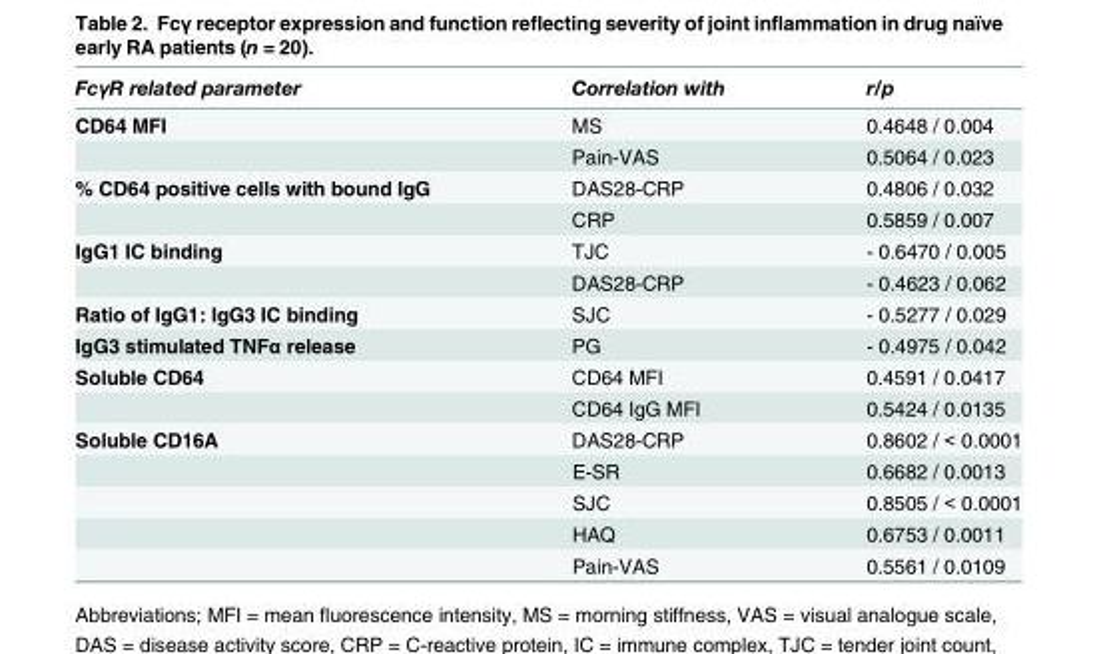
<table><thead><tr><td>FcγR related parameter</td><td>Correlation with</td><td>r/p</td></tr></thead><tbody><tr><td rowspan="2">CD64 MFI</td><td>MS</td><td>0.4648 / 0.004</td></tr><tr><td>Pain-VAS</td><td>0.5064 / 0.023</td></tr><tr><td rowspan="2">% CD64 positive cells with bound IgG</td><td>DAS28-CRP</td><td>0.4806 / 0.032</td></tr><tr><td>CRP</td><td>0.5859 / 0.007</td></tr><tr><td rowspan="2">IgG1 IC binding</td><td>TJC</td><td>- 0.6470 / 0.005</td></tr><tr><td>DAS28-CRP</td><td>- 0.4623 / 0.062</td></tr><tr><td>Ratio of IgG1: IgG3 IC binding</td><td>SJC</td><td>- 0.5277 / 0.029</td></tr><tr><td>IgG3 stimulated TNFα release</td><td>PG</td><td>- 0.4975 / 0.042</td></tr><tr><td rowspan="2">Soluble CD64</td><td>CD64 MFI</td><td>0.4591 / 0.0417</td></tr><tr><td>CD64 IgG MFI</td><td>0.5424 / 0.0135</td></tr><tr><td rowspan="5">Soluble CD16A</td><td>DAS28-CRP</td><td>0.8602 / &lt; 0.0001</td></tr><tr><td>E-SR</td><td>0.6682 / 0.0013</td></tr><tr><td>SJC</td><td>0.8505 / &lt; 0.0001</td></tr><tr><td>HAQ</td><td>0.6753 / 0.0011</td></tr><tr><td>Pain-VAS</td><td>0.5561 / 0.0109</td></tr></tbody></table>